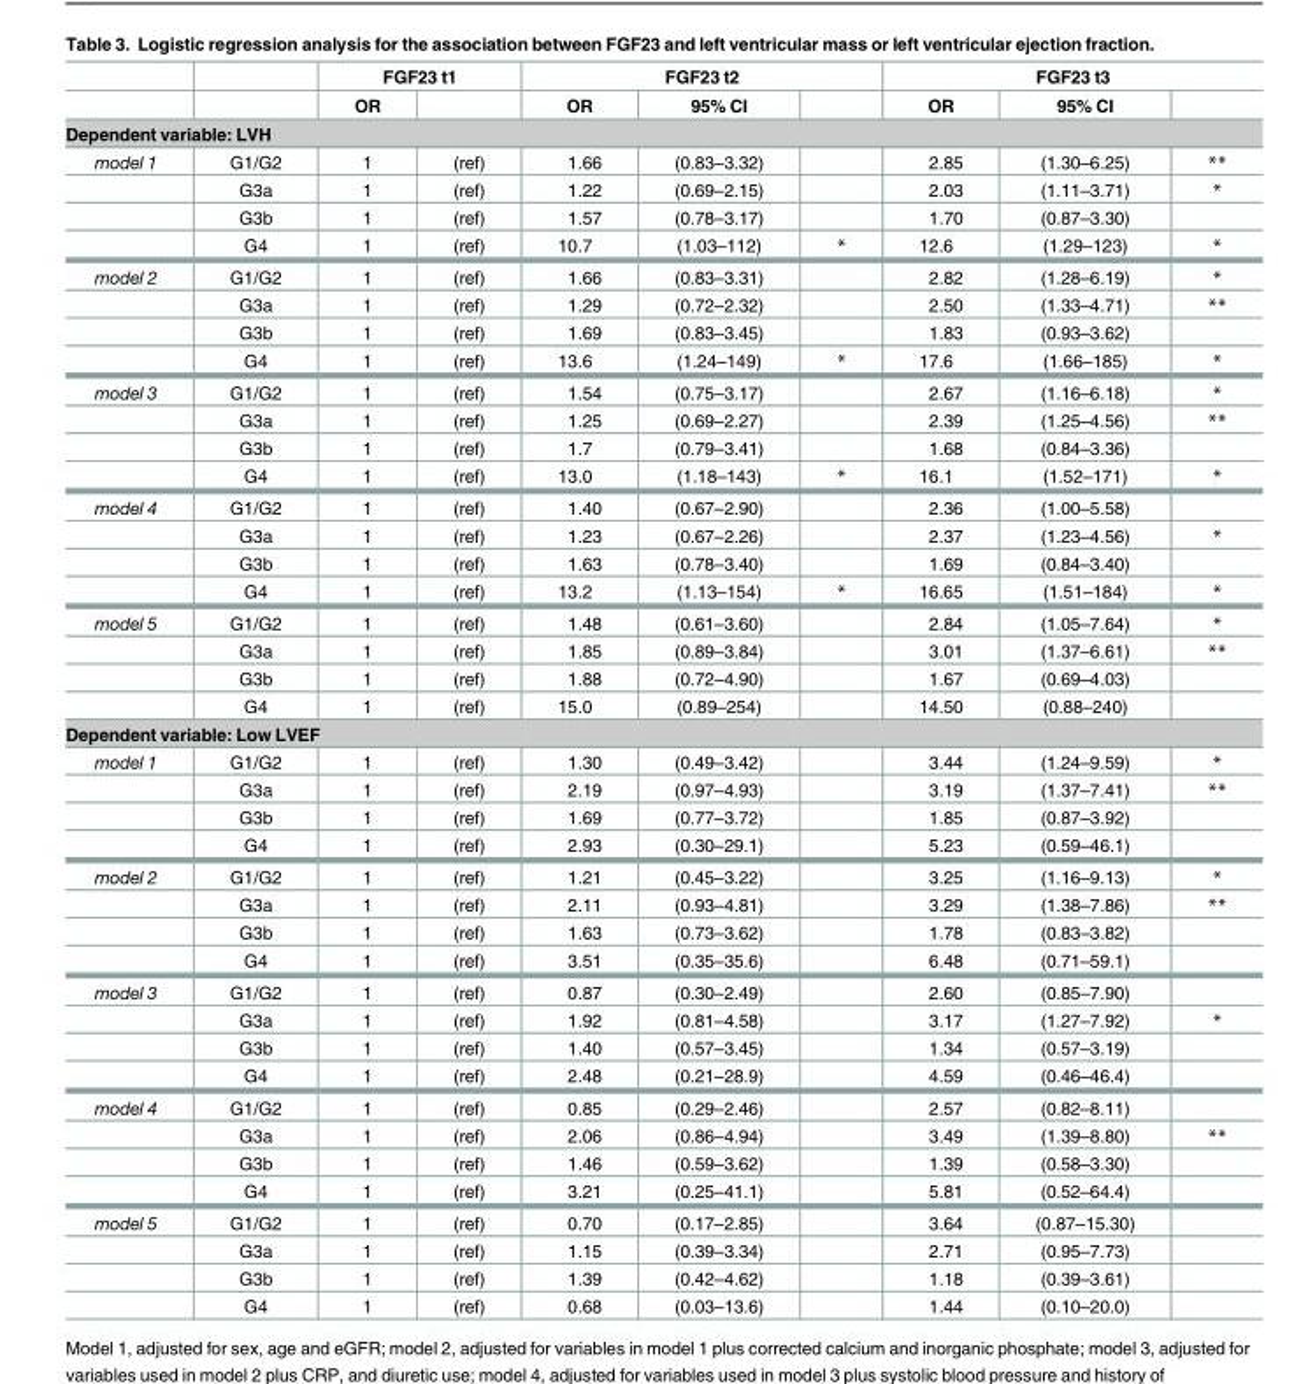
<table><thead><tr><td rowspan="2"></td><td rowspan="2"></td><td colspan="2">FGF23 t1</td><td colspan="3">FGF23 t2</td><td colspan="3">FGF23 t3</td></tr><tr><td>OR</td><td></td><td>OR</td><td>95% CI</td><td></td><td>OR</td><td>95% CI</td><td></td></tr></thead><tbody><tr><td colspan="10">Dependent variable: LVH</td></tr><tr><td rowspan="4">model 1</td><td>G1/G2</td><td>1</td><td>(ref)</td><td>1.66</td><td>(0.83–3.32)</td><td></td><td>2.85</td><td>(1.30–6.25)</td><td>**</td></tr><tr><td>G3a</td><td>1</td><td>(ref)</td><td>1.22</td><td>(0.69–2.15)</td><td></td><td>2.03</td><td>(1.11–3.71)</td><td>*</td></tr><tr><td>G3b</td><td>1</td><td>(ref)</td><td>1.57</td><td>(0.78–3.17)</td><td></td><td>1.70</td><td>(0.87–3.30)</td><td></td></tr><tr><td>G4</td><td>1</td><td>(ref)</td><td>10.7</td><td>(1.03–112)</td><td>*</td><td>12.6</td><td>(1.29–123)</td><td>*</td></tr><tr><td rowspan="4">model 2</td><td>G1/G2</td><td>1</td><td>(ref)</td><td>1.66</td><td>(0.83–3.31)</td><td></td><td>2.82</td><td>(1.28–6.19)</td><td>*</td></tr><tr><td>G3a</td><td>1</td><td>(ref)</td><td>1.29</td><td>(0.72–2.32)</td><td></td><td>2.50</td><td>(1.33–4.71)</td><td>**</td></tr><tr><td>G3b</td><td>1</td><td>(ref)</td><td>1.69</td><td>(0.83–3.45)</td><td></td><td>1.83</td><td>(0.93–3.62)</td><td></td></tr><tr><td>G4</td><td>1</td><td>(ref)</td><td>13.6</td><td>(1.24–149)</td><td>*</td><td>17.6</td><td>(1.66–185)</td><td>*</td></tr><tr><td rowspan="4">model 3</td><td>G1/G2</td><td>1</td><td>(ref)</td><td>1.54</td><td>(0.75–3.17)</td><td></td><td>2.67</td><td>(1.16–6.18)</td><td>*</td></tr><tr><td>G3a</td><td>1</td><td>(ref)</td><td>1.25</td><td>(0.69–2.27)</td><td></td><td>2.39</td><td>(1.25–4.56)</td><td>**</td></tr><tr><td>G3b</td><td>1</td><td>(ref)</td><td>1.7</td><td>(0.79–3.41)</td><td></td><td>1.68</td><td>(0.84–3.36)</td><td></td></tr><tr><td>G4</td><td>1</td><td>(ref)</td><td>13.0</td><td>(1.18–143)</td><td>*</td><td>16.1</td><td>(1.52–171)</td><td>*</td></tr><tr><td rowspan="4">model 4</td><td>G1/G2</td><td>1</td><td>(ref)</td><td>1.40</td><td>(0.67–2.90)</td><td></td><td>2.36</td><td>(1.00–5.58)</td><td></td></tr><tr><td>G3a</td><td>1</td><td>(ref)</td><td>1.23</td><td>(0.67–2.26)</td><td></td><td>2.37</td><td>(1.23–4.56)</td><td>*</td></tr><tr><td>G3b</td><td>1</td><td>(ref)</td><td>1.63</td><td>(0.78–3.40)</td><td></td><td>1.69</td><td>(0.84–3.40)</td><td></td></tr><tr><td>G4</td><td>1</td><td>(ref)</td><td>13.2</td><td>(1.13–154)</td><td>*</td><td>16.65</td><td>(1.51–184)</td><td>*</td></tr><tr><td rowspan="4">model 5</td><td>G1/G2</td><td>1</td><td>(ref)</td><td>1.48</td><td>(0.61–3.60)</td><td></td><td>2.84</td><td>(1.05–7.64)</td><td>*</td></tr><tr><td>G3a</td><td>1</td><td>(ref)</td><td>1.85</td><td>(0.89–3.84)</td><td></td><td>3.01</td><td>(1.37–6.61)</td><td>**</td></tr><tr><td>G3b</td><td>1</td><td>(ref)</td><td>1.88</td><td>(0.72–4.90)</td><td></td><td>1.67</td><td>(0.69–4.03)</td><td></td></tr><tr><td>G4</td><td>1</td><td>(ref)</td><td>15.0</td><td>(0.89–254)</td><td></td><td>14.50</td><td>(0.88–240)</td><td></td></tr><tr><td colspan="10">Dependent variable: Low LVEF</td></tr><tr><td rowspan="4">model 1</td><td>G1/G2</td><td>1</td><td>(ref)</td><td>1.30</td><td>(0.49–3.42)</td><td></td><td>3.44</td><td>(1.24–9.59)</td><td>*</td></tr><tr><td>G3a</td><td>1</td><td>(ref)</td><td>2.19</td><td>(0.97–4.93)</td><td></td><td>3.19</td><td>(1.37–7.41)</td><td>**</td></tr><tr><td>G3b</td><td>1</td><td>(ref)</td><td>1.69</td><td>(0.77–3.72)</td><td></td><td>1.85</td><td>(0.87–3.92)</td><td></td></tr><tr><td>G4</td><td>1</td><td>(ref)</td><td>2.93</td><td>(0.30–29.1)</td><td></td><td>5.23</td><td>(0.59–46.1)</td><td></td></tr><tr><td rowspan="4">model 2</td><td>G1/G2</td><td>1</td><td>(ref)</td><td>1.21</td><td>(0.45–3.22)</td><td></td><td>3.25</td><td>(1.16–9.13)</td><td>*</td></tr><tr><td>G3a</td><td>1</td><td>(ref)</td><td>2.11</td><td>(0.93–4.81)</td><td></td><td>3.29</td><td>(1.38–7.86)</td><td>**</td></tr><tr><td>G3b</td><td>1</td><td>(ref)</td><td>1.63</td><td>(0.73–3.62)</td><td></td><td>1.78</td><td>(0.83–3.82)</td><td></td></tr><tr><td>G4</td><td>1</td><td>(ref)</td><td>3.51</td><td>(0.35–35.6)</td><td></td><td>6.48</td><td>(0.71–59.1)</td><td></td></tr><tr><td rowspan="4">model 3</td><td>G1/G2</td><td>1</td><td>(ref)</td><td>0.87</td><td>(0.30–2.49)</td><td></td><td>2.60</td><td>(0.85–7.90)</td><td></td></tr><tr><td>G3a</td><td>1</td><td>(ref)</td><td>1.92</td><td>(0.81–4.58)</td><td></td><td>3.17</td><td>(1.27–7.92)</td><td>*</td></tr><tr><td>G3b</td><td>1</td><td>(ref)</td><td>1.40</td><td>(0.57–3.45)</td><td></td><td>1.34</td><td>(0.57–3.19)</td><td></td></tr><tr><td>G4</td><td>1</td><td>(ref)</td><td>2.48</td><td>(0.21–28.9)</td><td></td><td>4.59</td><td>(0.46–46.4)</td><td></td></tr><tr><td rowspan="4">model 4</td><td>G1/G2</td><td>1</td><td>(ref)</td><td>0.85</td><td>(0.29–2.46)</td><td></td><td>2.57</td><td>(0.82–8.11)</td><td></td></tr><tr><td>G3a</td><td>1</td><td>(ref)</td><td>2.06</td><td>(0.86–4.94)</td><td></td><td>3.49</td><td>(1.39–8.80)</td><td>**</td></tr><tr><td>G3b</td><td>1</td><td>(ref)</td><td>1.46</td><td>(0.59–3.62)</td><td></td><td>1.39</td><td>(0.58–3.30)</td><td></td></tr><tr><td>G4</td><td>1</td><td>(ref)</td><td>3.21</td><td>(0.25–41.1)</td><td></td><td>5.81</td><td>(0.52–64.4)</td><td></td></tr><tr><td rowspan="4">model 5</td><td>G1/G2</td><td>1</td><td>(ref)</td><td>0.70</td><td>(0.17–2.85)</td><td></td><td>3.64</td><td>(0.87–15.30)</td><td></td></tr><tr><td>G3a</td><td>1</td><td>(ref)</td><td>1.15</td><td>(0.39–3.34)</td><td></td><td>2.71</td><td>(0.95–7.73)</td><td></td></tr><tr><td>G3b</td><td>1</td><td>(ref)</td><td>1.39</td><td>(0.42–4.62)</td><td></td><td>1.18</td><td>(0.39–3.61)</td><td></td></tr><tr><td>G4</td><td>1</td><td>(ref)</td><td>0.68</td><td>(0.03–13.6)</td><td></td><td>1.44</td><td>(0.10–20.0)</td><td></td></tr></tbody></table>